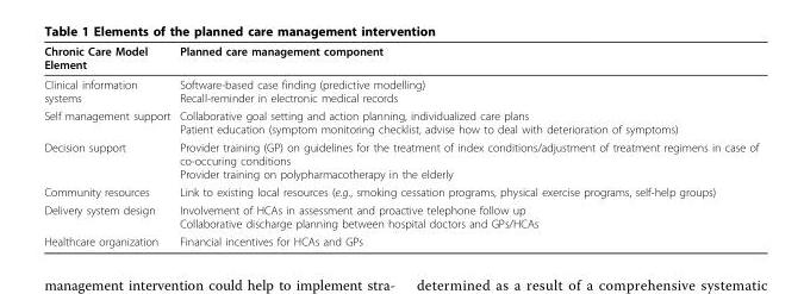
<table><thead><tr><td>Chronic Care Model Element</td><td>Planned care management component</td></tr></thead><tbody><tr><td>Clinical information systems</td><td>Software-based case finding (predictive modelling) Recall-reminder in electronic medical records</td></tr><tr><td>Self management support</td><td>Collaborative goal setting and action planning, individualized care plans Patient education (symptom monitoring checklist, advise how to deal with deterioration of symptoms)</td></tr><tr><td>Decision support</td><td>Provider training (GP) on guidelines for the treatment of index conditions/adjustment of treatment regimens in case of co-occuring conditions Provider training on polypharmacotherapy in the elderly</td></tr><tr><td>Community resources</td><td>Link to existing local resources (e.g., smoking cessation programs, physical exercise programs, self-help groups)</td></tr><tr><td>Delivery system design</td><td>Involvement of HCAs in assessment and proactive telephone follow up Collaborative discharge planning between hospital doctors and GPs/HCAs</td></tr><tr><td>Healthcare organization</td><td>Financial incentives for HCAs and GPs</td></tr></tbody></table>